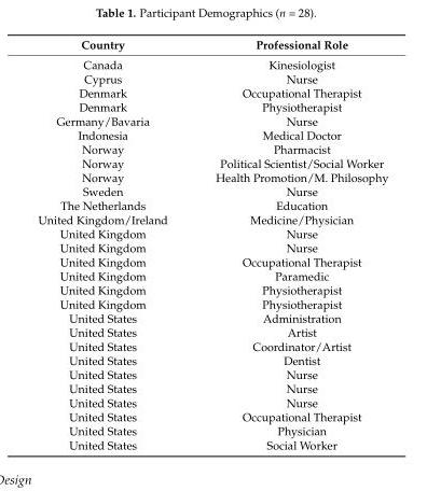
<table><thead><tr><td>Country</td><td>Professional Role</td></tr></thead><tbody><tr><td>Canada</td><td>Kinesiologist</td></tr><tr><td>Cyprus</td><td>Nurse</td></tr><tr><td>Denmark</td><td>Occupational Therapist</td></tr><tr><td>Denmark</td><td>Physiotherapist</td></tr><tr><td>Germany/Bavaria</td><td>Nurse</td></tr><tr><td>Indonesia</td><td>Medical Doctor</td></tr><tr><td>Norway</td><td>Pharmacist</td></tr><tr><td>Norway</td><td>Political Scientist/Social Worker</td></tr><tr><td>Norway</td><td>Health Promotion/M. Philosophy</td></tr><tr><td>Sweden</td><td>Nurse</td></tr><tr><td>The Netherlands</td><td>Education</td></tr><tr><td>United Kingdom/Ireland</td><td>Medicine/Physician</td></tr><tr><td>United Kingdom</td><td>Nurse</td></tr><tr><td>United Kingdom</td><td>Nurse</td></tr><tr><td>United Kingdom</td><td>Occupational Therapist</td></tr><tr><td>United Kingdom</td><td>Paramedic</td></tr><tr><td>United Kingdom</td><td>Physiotherapist</td></tr><tr><td>United Kingdom</td><td>Physiotherapist</td></tr><tr><td>United States</td><td>Administration</td></tr><tr><td>United States</td><td>Artist</td></tr><tr><td>United States</td><td>Coordinator/Artist</td></tr><tr><td>United States</td><td>Dentist</td></tr><tr><td>United States</td><td>Nurse</td></tr><tr><td>United States</td><td>Nurse</td></tr><tr><td>United States</td><td>Nurse</td></tr><tr><td>United States</td><td>Occupational Therapist</td></tr><tr><td>United States</td><td>Physician</td></tr><tr><td>United States</td><td>Social Worker</td></tr></tbody></table>